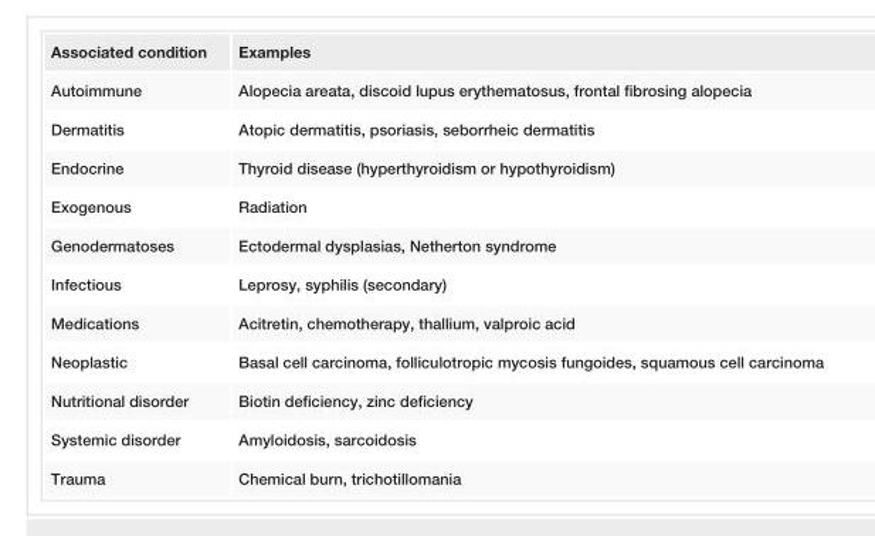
<table><tbody><tr><td>Associated condition</td><td>Examples</td></tr><tr><td>Autoimmune</td><td>Alopecia areata, discoid lupus erythematosus, frontal fibrosing alopecia</td></tr><tr><td>Dermatitis</td><td>Atopic dermatitis, psoriasis, seborrheic dermatitis</td></tr><tr><td>Endocrine</td><td>Thyroid disease (hyperthyroidism or hypothyroidism)</td></tr><tr><td>Exogenous</td><td>Radiation</td></tr><tr><td>Genodermatoses</td><td>Ectodermal dysplasias, Netherton syndrome</td></tr><tr><td>Infectious</td><td>Leprosy, syphilis (secondary)</td></tr><tr><td>Medications</td><td>Acitretin, chemotherapy, thallium, valproic acid</td></tr><tr><td>Neoplastic</td><td>Basal cell carcinoma, folliculotropic mycosis fungoides, squamous cell carcinoma</td></tr><tr><td>Nutritional disorder</td><td>Biotin deficiency, zinc deficiency</td></tr><tr><td>Systemic disorder</td><td>Amyloidosis, sarcoidosis</td></tr><tr><td>Trauma</td><td>Chemical burn, trichotillomania</td></tr></tbody></table>